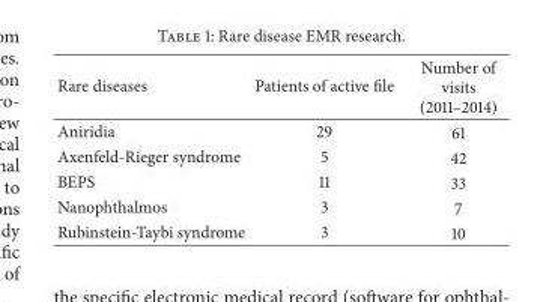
<table><thead><tr><td>Rare diseases</td><td>Patients of active file</td><td>Number of visits (2011–2014)</td></tr></thead><tbody><tr><td>Aniridia</td><td>29</td><td>61</td></tr><tr><td>Axenfeld-Rieger syndrome</td><td>5</td><td>42</td></tr><tr><td>BEPS</td><td>11</td><td>33</td></tr><tr><td>Nanophthalmos</td><td>3</td><td>7</td></tr><tr><td>Rubinstein-Taybi syndrome</td><td>3</td><td>10</td></tr></tbody></table>